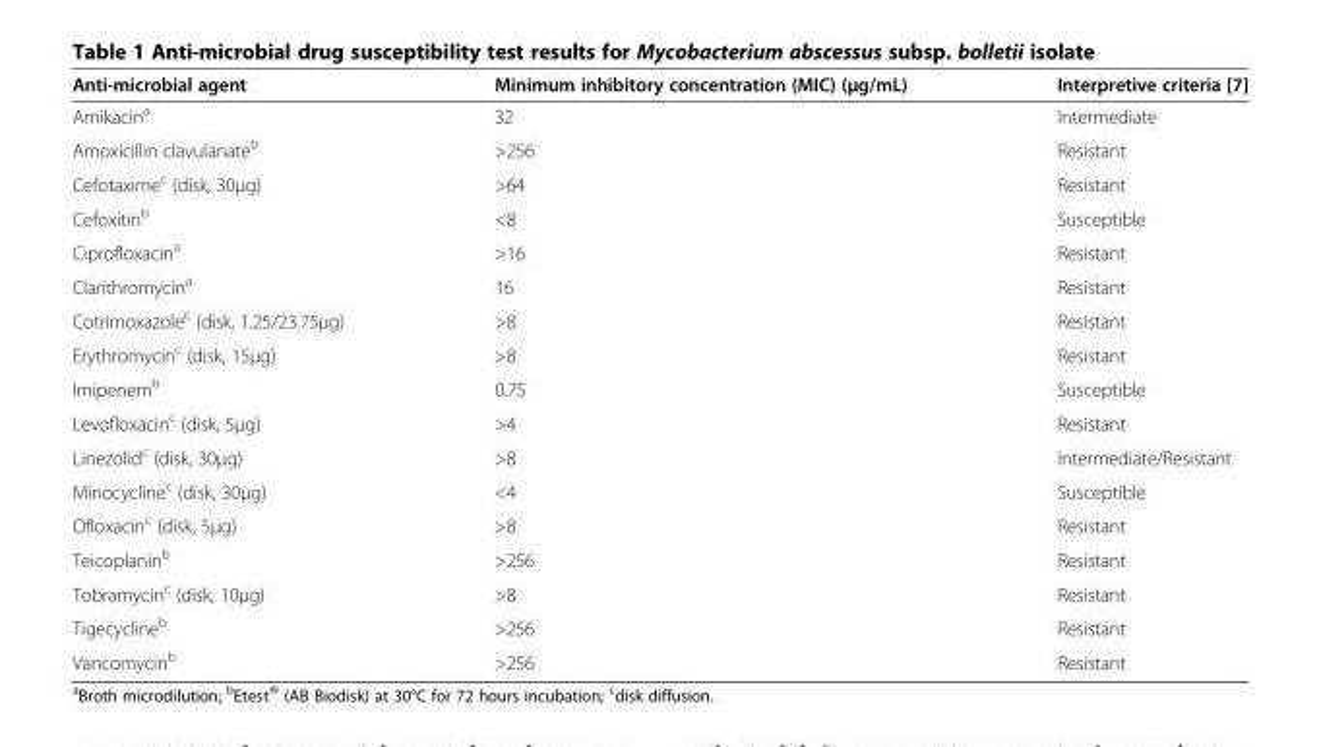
<table><thead><tr><td>Anti-microbial agent</td><td>Minimum inhibitory concentration (MIC) (μg/mL)</td><td>Interpretive criteria [7]</td></tr></thead><tbody><tr><td>Amikacin<sup>a</sup></td><td>32</td><td>Intermediate</td></tr><tr><td>Amoxicillin clavulanate<sup>b</sup></td><td>&gt;256</td><td>Resistant</td></tr><tr><td>Cefotaxime<sup>c</sup> (disk, 30μg)</td><td>&gt;64</td><td>Resistant</td></tr><tr><td>Cefoxitin<sup>b</sup></td><td>&lt;8</td><td>Susceptible</td></tr><tr><td>Ciprofloxacin<sup>a</sup></td><td>&gt;16</td><td>Resistant</td></tr><tr><td>Clarithromycin<sup>a</sup></td><td>16</td><td>Resistant</td></tr><tr><td>Cotrimoxazole<sup>c</sup> (disk, 1.25/23.75μg)</td><td>&gt;8</td><td>Resistant</td></tr><tr><td>Erythromycin<sup>c</sup> (disk, 15μg)</td><td>&gt;8</td><td>Resistant</td></tr><tr><td>Imipenem<sup>b</sup></td><td>0.75</td><td>Susceptible</td></tr><tr><td>Levofloxacin<sup>c</sup> (disk, 5μg)</td><td>&gt;4</td><td>Resistant</td></tr><tr><td>Linezolid<sup>c</sup> (disk, 30μg)</td><td>&gt;8</td><td>Intermediate/Resistant</td></tr><tr><td>Minocycline<sup>c</sup> (disk, 30μg)</td><td>&lt;4</td><td>Susceptible</td></tr><tr><td>Ofloxacin<sup>c</sup> (disk, 5μg)</td><td>&gt;8</td><td>Resistant</td></tr><tr><td>Teicoplanin<sup>b</sup></td><td>&gt;256</td><td>Resistant</td></tr><tr><td>Tobramycin<sup>c</sup> (disk, 10μg)</td><td>&gt;8</td><td>Resistant</td></tr><tr><td>Tigecycline<sup>b</sup></td><td>&gt;256</td><td>Resistant</td></tr><tr><td>Vancomycin<sup>b</sup></td><td>&gt;256</td><td>Resistant</td></tr></tbody></table>